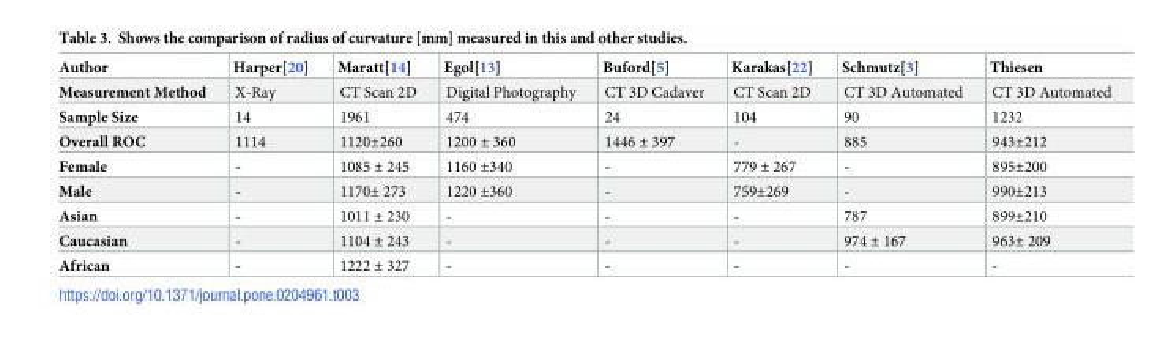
<table><thead><tr><td>Author</td><td>Harper[20]</td><td>Maratt[14]</td><td>Egol[13]</td><td>Buford[5]</td><td>Karakas[22]</td><td>Schmutz[3]</td><td>Thiesen</td></tr></thead><tbody><tr><td>Measurement Method</td><td>X-Ray</td><td>CT Scan 2D</td><td>Digital Photography</td><td>CT 3D Cadaver</td><td>CT Scan 2D</td><td>CT 3D Automated</td><td>CT 3D Automated</td></tr><tr><td>Sample Size</td><td>14</td><td>1961</td><td>474</td><td>24</td><td>104</td><td>90</td><td>1232</td></tr><tr><td>Overall ROC</td><td>1114</td><td>1120±260</td><td>1200 ± 360</td><td>1446 ± 397</td><td>-</td><td>885</td><td>943±212</td></tr><tr><td>Female</td><td>-</td><td>1085 ± 245</td><td>1160 ±340</td><td>-</td><td>779 ± 267</td><td>-</td><td>895±200</td></tr><tr><td>Male</td><td>-</td><td>1170± 273</td><td>1220 ±360</td><td>-</td><td>759±269</td><td>-</td><td>990±213</td></tr><tr><td>Asian</td><td>-</td><td>1011 ± 230</td><td>-</td><td>-</td><td>-</td><td>787</td><td>899±210</td></tr><tr><td>Caucasian</td><td>-</td><td>1104 ± 243</td><td>-</td><td>-</td><td>-</td><td>974 ± 167</td><td>963± 209</td></tr><tr><td>African</td><td>-</td><td>1222 ± 327</td><td>-</td><td>-</td><td>-</td><td>-</td><td>-</td></tr></tbody></table>